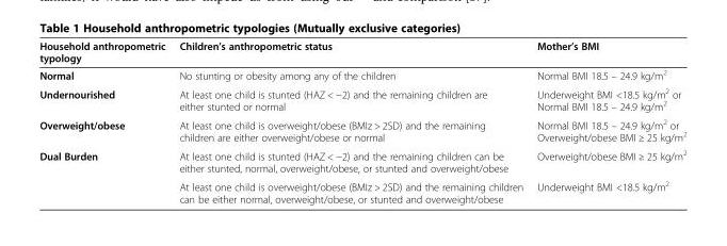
<table><thead><tr><td>Household anthropometric typology</td><td>Children’s anthropometric status</td><td>Mother’s BMI</td></tr></thead><tbody><tr><td>Normal</td><td>No stunting or obesity among any of the children</td><td>Normal BMI 18.5 – 24.9 kg/m<sup>2</sup></td></tr><tr><td>Undernourished</td><td>At least one child is stunted (HAZ &lt; −2) and the remaining children are either stunted or normal</td><td>Underweight BMI &lt;18.5 kg/m<sup>2</sup> or Normal BMI 18.5 – 24.9 kg/m<sup>2</sup></td></tr><tr><td>Overweight/obese</td><td>At least one child is overweight/obese (BMIz &gt; 2SD) and the remaining children are either overweight/obese or normal</td><td>Normal BMI 18.5 – 24.9 kg/m<sup>2</sup> or Overweight/obese BMI ≥ 25 kg/m<sup>2</sup></td></tr><tr><td rowspan="2">Dual Burden</td><td>At least one child is stunted (HAZ &lt; −2) and the remaining children can be either stunted, normal, overweight/obese, or stunted and overweight/obese</td><td>Overweight/obese BMI ≥ 25 kg/m<sup>2</sup></td></tr><tr><td>At least one child is overweight/obese (BMIz &gt; 2SD) and the remaining children can be either normal, overweight/obese, or stunted and overweight/obese</td><td>Underweight BMI &lt;18.5 kg/m<sup>2</sup></td></tr></tbody></table>